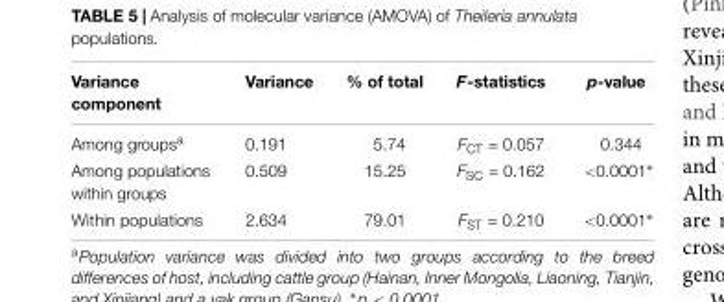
<table><thead><tr><td>Variance component</td><td>Variance</td><td>% of total</td><td>F-statistics</td><td>p-value</td></tr></thead><tbody><tr><td>Among groups<sup>a</sup></td><td>0.191</td><td>5.74</td><td>F<sub>CT</sub> = 0.057</td><td>0.344</td></tr><tr><td>Among populations within groups</td><td>0.509</td><td>15.25</td><td>F<sub>SC</sub> = 0.162</td><td>&lt;0.0001∗</td></tr><tr><td>Within populations</td><td>2.634</td><td>79.01</td><td>F<sub>ST</sub> = 0.210</td><td>&lt;0.0001∗</td></tr></tbody></table>